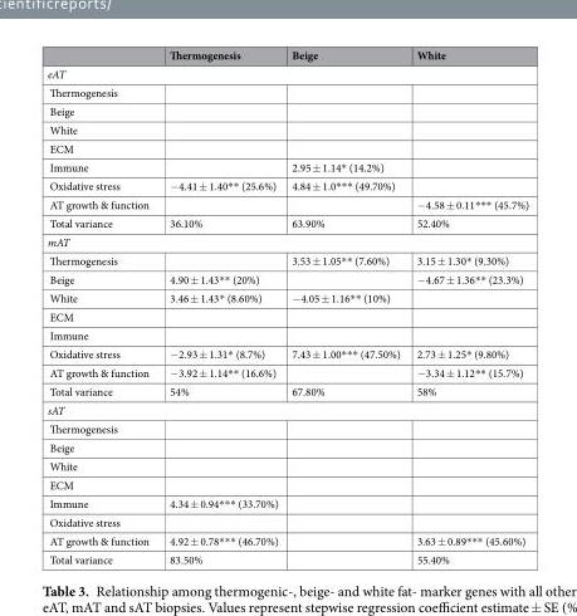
<table><thead><tr><td></td><td>Thermogenesis</td><td>Beige</td><td>White</td></tr></thead><tbody><tr><td colspan="4">eAT</td></tr><tr><td colspan="4">Thermogenesis</td></tr><tr><td colspan="4">Beige</td></tr><tr><td colspan="4">White</td></tr><tr><td colspan="4">ECM</td></tr><tr><td>Immune</td><td></td><td>2.95 ± 1.14* (14.2%)</td><td></td></tr><tr><td>Oxidative stress</td><td>−4.41 ± 1.40** (25.6%)</td><td>4.84 ± 1.0*** (49.70%)</td><td></td></tr><tr><td>AT growth &amp; function</td><td></td><td></td><td>−4.58 ± 0.11*** (45.7%)</td></tr><tr><td>Total variance</td><td>36.10%</td><td>63.90%</td><td>52.40%</td></tr><tr><td colspan="4">mAT</td></tr><tr><td>Thermogenesis</td><td></td><td>3.53 ± 1.05** (7.60%)</td><td>3.15 ± 1.30* (9.30%)</td></tr><tr><td>Beige</td><td>4.90 ± 1.43** (20%)</td><td></td><td>−4.67 ± 1.36** (23.3%)</td></tr><tr><td>White</td><td>3.46 ± 1.43* (8.60%)</td><td>−4.05 ± 1.16** (10%)</td><td></td></tr><tr><td colspan="4">ECM</td></tr><tr><td colspan="4">Immune</td></tr><tr><td>Oxidative stress</td><td>−2.93 ± 1.31* (8.7%)</td><td>7.43 ± 1.00*** (47.50%)</td><td>2.73 ± 1.25* (9.80%)</td></tr><tr><td>AT growth &amp; function</td><td>−3.92 ± 1.14** (16.6%)</td><td></td><td>−3.34 ± 1.12** (15.7%)</td></tr><tr><td>Total variance</td><td>54%</td><td>67.80%</td><td>58%</td></tr><tr><td colspan="4">sAT</td></tr><tr><td colspan="4">Thermogenesis</td></tr><tr><td colspan="4">Beige</td></tr><tr><td colspan="4">White</td></tr><tr><td colspan="4">ECM</td></tr><tr><td>Immune</td><td>4.34 ± 0.94*** (33.70%)</td><td></td><td></td></tr><tr><td colspan="4">Oxidative stress</td></tr><tr><td>AT growth &amp; function</td><td>4.92 ± 0.78*** (46.70%)</td><td></td><td>3.63 ± 0.89*** (45.60%)</td></tr><tr><td>Total variance</td><td>83.50%</td><td></td><td>55.40%</td></tr></tbody></table>